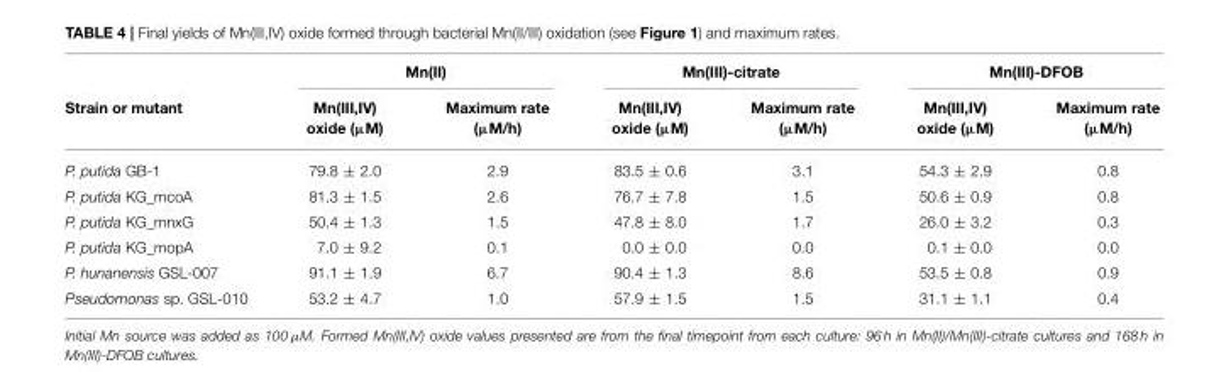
<table><thead><tr><td rowspan="2">Strain or mutant</td><td colspan="2">Mn(II)</td><td colspan="2">Mn(III)-citrate</td><td colspan="2">Mn(III)-DFOB</td></tr><tr><td>Mn(III,IV) oxide (µM)</td><td>Maximum rate (µM/h)</td><td>Mn(III,IV) oxide (µM)</td><td>Maximum rate (µM/h)</td><td>Mn(III,IV) oxide (µM)</td><td>Maximum rate (µM/h)</td></tr></thead><tbody><tr><td>P. putida GB-1</td><td>79.8 ± 2.0</td><td>2.9</td><td>83.5 ± 0.6</td><td>3.1</td><td>54.3 ± 2.9</td><td>0.8</td></tr><tr><td>P. putida KG_mcoA</td><td>81.3 ± 1.5</td><td>2.6</td><td>76.7 ± 7.8</td><td>1.5</td><td>50.6 ± 0.9</td><td>0.8</td></tr><tr><td>P. putida KG_mnxG</td><td>50.4 ± 1.3</td><td>1.5</td><td>47.8 ± 8.0</td><td>1.7</td><td>26.0 ± 3.2</td><td>0.3</td></tr><tr><td>P. putida KG_mopA</td><td>7.0 ± 9.2</td><td>0.1</td><td>0.0 ± 0.0</td><td>0.0</td><td>0.1 ± 0.0</td><td>0.0</td></tr><tr><td>P. hunanensis GSL-007</td><td>91.1 ± 1.9</td><td>6.7</td><td>90.4 ± 1.3</td><td>8.6</td><td>53.5 ± 0.8</td><td>0.9</td></tr><tr><td>Pseudomonas sp. GSL-010</td><td>53.2 ± 4.7</td><td>1.0</td><td>57.9 ± 1.5</td><td>1.5</td><td>31.1 ± 1.1</td><td>0.4</td></tr></tbody></table>